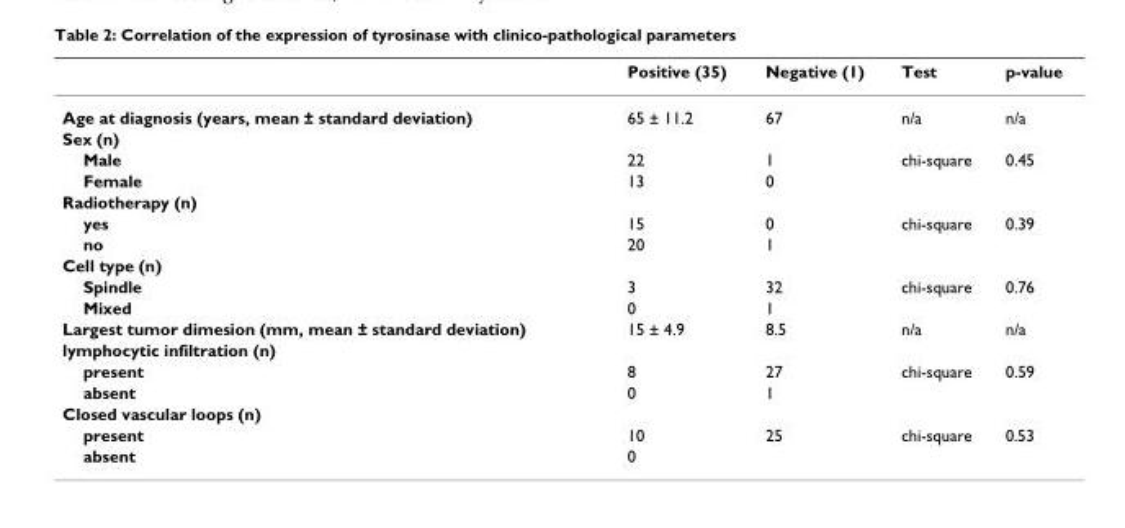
<table><thead><tr><td></td><td>Positive (35)</td><td>Negative (1)</td><td>Test</td><td>p-value</td></tr></thead><tbody><tr><td>Age at diagnosis (years, mean ± standard deviation)</td><td>65 ± 11.2</td><td>67</td><td>n/a</td><td>n/a</td></tr><tr><td colspan="5">Sex (n)</td></tr><tr><td>Male</td><td>22</td><td>1</td><td>chi-square</td><td>0.45</td></tr><tr><td>Female</td><td>13</td><td>0</td><td></td><td></td></tr><tr><td colspan="5">Radiotherapy (n)</td></tr><tr><td>yes</td><td>15</td><td>0</td><td>chi-square</td><td>0.39</td></tr><tr><td>no</td><td>20</td><td>1</td><td></td><td></td></tr><tr><td colspan="5">Cell type (n)</td></tr><tr><td>Spindle</td><td>3</td><td>32</td><td>chi-square</td><td>0.76</td></tr><tr><td>Mixed</td><td>0</td><td>1</td><td></td><td></td></tr><tr><td>Largest tumor dimesion (mm, mean ± standard deviation)</td><td>15 ± 4.9</td><td>8.5</td><td>n/a</td><td>n/a</td></tr><tr><td colspan="5">lymphocytic infiltration (n)</td></tr><tr><td>present</td><td>8</td><td>27</td><td>chi-square</td><td>0.59</td></tr><tr><td>absent</td><td>0</td><td>1</td><td></td><td></td></tr><tr><td colspan="5">Closed vascular loops (n)</td></tr><tr><td>present</td><td>10</td><td>25</td><td>chi-square</td><td>0.53</td></tr><tr><td>absent</td><td>0</td><td></td><td></td><td></td></tr></tbody></table>